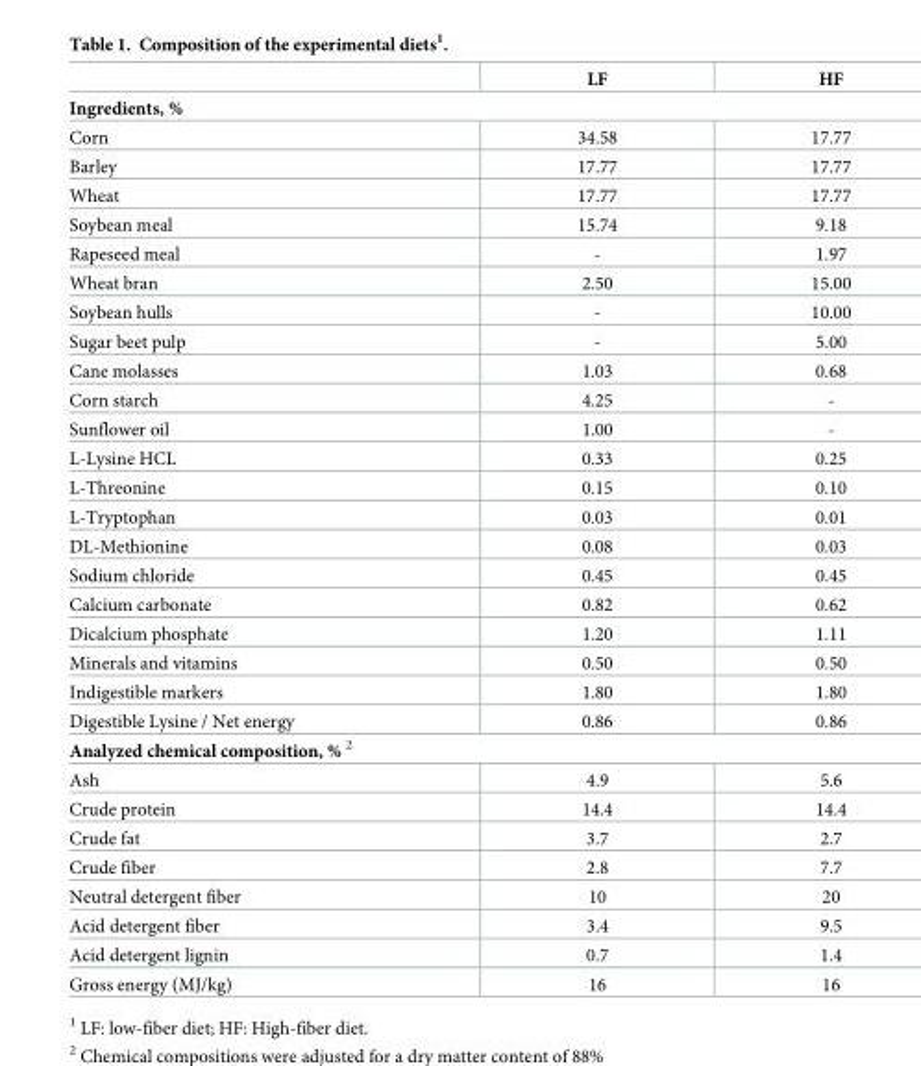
<table><thead><tr><td></td><td>LF</td><td>HF</td></tr></thead><tbody><tr><td colspan="3">Ingredients, %</td></tr><tr><td>Corn</td><td>34.58</td><td>17.77</td></tr><tr><td>Barley</td><td>17.77</td><td>17.77</td></tr><tr><td>Wheat</td><td>17.77</td><td>17.77</td></tr><tr><td>Soybean meal</td><td>15.74</td><td>9.18</td></tr><tr><td>Rapeseed meal</td><td>-</td><td>1.97</td></tr><tr><td>Wheat bran</td><td>2.50</td><td>15.00</td></tr><tr><td>Soybean hulls</td><td>-</td><td>10.00</td></tr><tr><td>Sugar beet pulp</td><td>-</td><td>5.00</td></tr><tr><td>Cane molasses</td><td>1.03</td><td>0.68</td></tr><tr><td>Corn starch</td><td>4.25</td><td>-</td></tr><tr><td>Sunflower oil</td><td>1.00</td><td>-</td></tr><tr><td>L-Lysine HCL</td><td>0.33</td><td>0.25</td></tr><tr><td>L-Threonine</td><td>0.15</td><td>0.10</td></tr><tr><td>L-Tryptophan</td><td>0.03</td><td>0.01</td></tr><tr><td>DL-Methionine</td><td>0.08</td><td>0.03</td></tr><tr><td>Sodium chloride</td><td>0.45</td><td>0.45</td></tr><tr><td>Calcium carbonate</td><td>0.82</td><td>0.62</td></tr><tr><td>Dicalcium phosphate</td><td>1.20</td><td>1.11</td></tr><tr><td>Minerals and vitamins</td><td>0.50</td><td>0.50</td></tr><tr><td>Indigestible markers</td><td>1.80</td><td>1.80</td></tr><tr><td>Digestible Lysine / Net energy</td><td>0.86</td><td>0.86</td></tr><tr><td colspan="3">Analyzed chemical composition, % <sup>2</sup></td></tr><tr><td>Ash</td><td>4.9</td><td>5.6</td></tr><tr><td>Crude protein</td><td>14.4</td><td>14.4</td></tr><tr><td>Crude fat</td><td>3.7</td><td>2.7</td></tr><tr><td>Crude fiber</td><td>2.8</td><td>7.7</td></tr><tr><td>Neutral detergent fiber</td><td>10</td><td>20</td></tr><tr><td>Acid detergent fiber</td><td>3.4</td><td>9.5</td></tr><tr><td>Acid detergent lignin</td><td>0.7</td><td>1.4</td></tr><tr><td>Gross energy (MJ/kg)</td><td>16</td><td>16</td></tr></tbody></table>